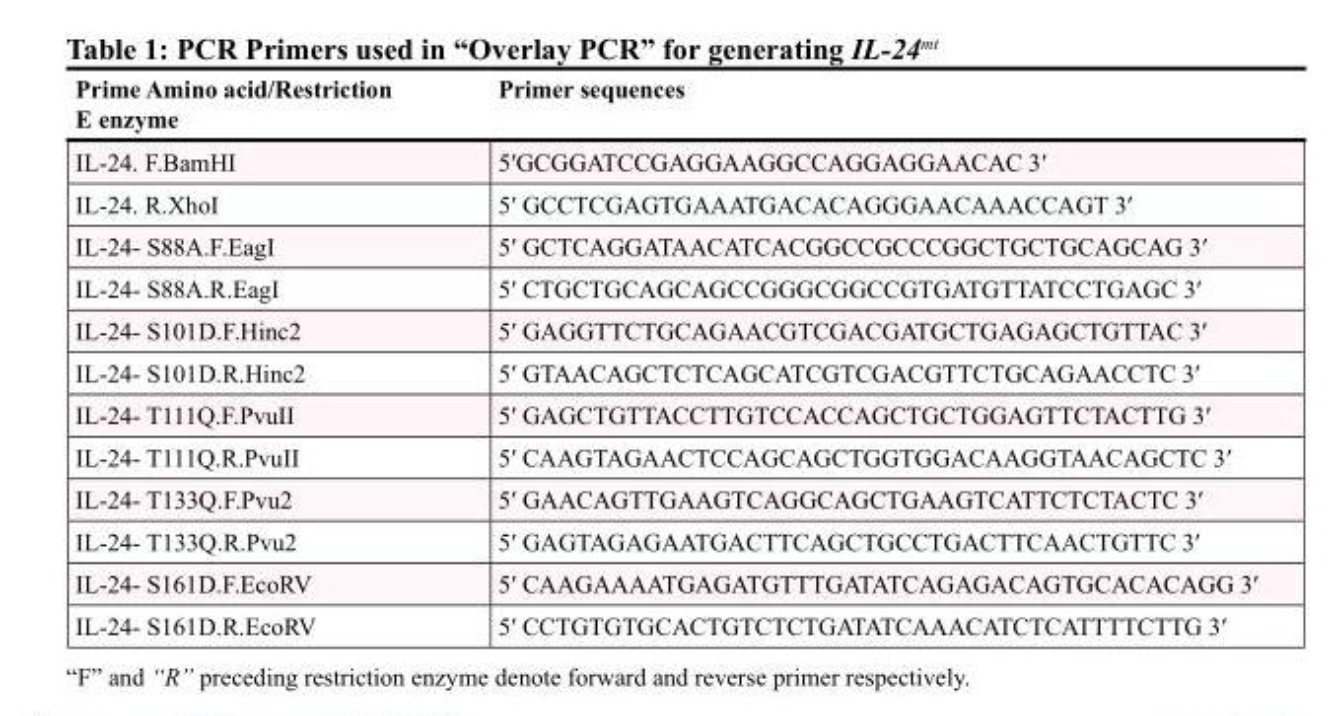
<table><thead><tr><td>Prime Amino acid/Restriction E enzyme</td><td>Primer sequences</td></tr></thead><tbody><tr><td>IL-24. F.BamHI</td><td>5′GCGGATCCGAGGAAGGCCAGGAGGAACAC 3′</td></tr><tr><td>IL-24. R.XhoI</td><td>5′ GCCTCGAGTGAAATGACACAGGGAACAAACCAGT 3′</td></tr><tr><td>IL-24- S88A.F.EagI</td><td>5′ GCTCAGGATAACATCACGGCCGCCCGGCTGCTGCAGCAG 3′</td></tr><tr><td>IL-24- S88A.R.EagI</td><td>5′ CTGCTGCAGCAGCCGGGCGGCCGTGATGTTATCCTGAGC 3′</td></tr><tr><td>IL-24- S101D.F.Hinc2</td><td>5′ GAGGTTCTGCAGAACGTCGACGATGCTGAGAGCTGTTAC 3′</td></tr><tr><td>IL-24- S101D.R.Hinc2</td><td>5′ GTAACAGCTCTCAGCATCGTCGACGTTCTGCAGAACCTC 3′</td></tr><tr><td>IL-24- T111Q.F.PvuII</td><td>5′ GAGCTGTTACCTTGTCCACCAGCTGCTGGAGTTCTACTTG 3′</td></tr><tr><td>IL-24- T111Q.R.PvuII</td><td>5′ CAAGTAGAACTCCAGCAGCTGGTGGACAAGGTAACAGCTC 3′</td></tr><tr><td>IL-24- T133Q.F.Pvu2</td><td>5′ GAACAGTTGAAGTCAGGCAGCTGAAGTCATTCTCTACTC 3′</td></tr><tr><td>IL-24- T133Q.R.Pvu2</td><td>5′ GAGTAGAGAATGACTTCAGCTGCCTGACTTCAACTGTTC 3′</td></tr><tr><td>IL-24- S161D.F.EcoRV</td><td>5′ CAAGAAAATGAGATGTTTGATATCAGAGACAGTGCACACAGG 3′</td></tr><tr><td>IL-24- S161D.R.EcoRV</td><td>5′ CCTGTGTGCACTGTCTCTGATATCAAACATCTCATTTTCTTG 3′</td></tr></tbody></table>